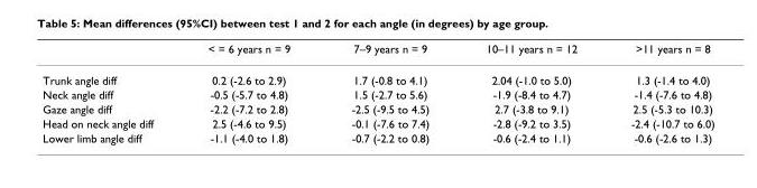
<table><thead><tr><td></td><td>&lt; = 6 years n = 9</td><td>7–9 years n = 9</td><td>10–11 years n = 12</td><td>&gt;11 years n = 8</td></tr></thead><tbody><tr><td>Trunk angle diff</td><td>0.2 (-2.6 to 2.9)</td><td>1.7 (-0.8 to 4.1)</td><td>2.04 (-1.0 to 5.0)</td><td>1.3 (-1.4 to 4.0)</td></tr><tr><td>Neck angle diff</td><td>-0.5 (-5.7 to 4.8)</td><td>1.5 (-2.7 to 5.6)</td><td>-1.9 (-8.4 to 4.7)</td><td>-1.4 (-7.6 to 4.8)</td></tr><tr><td>Gaze angle diff</td><td>-2.2 (-7.2 to 2.8)</td><td>-2.5 (-9.5 to 4.5)</td><td>2.7 (-3.8 to 9.1)</td><td>2.5 (-5.3 to 10.3)</td></tr><tr><td>Head on neck angle diff</td><td>2.5 (-4.6 to 9.5)</td><td>-0.1 (-7.6 to 7.4)</td><td>-2.8 (-9.2 to 3.5)</td><td>-2.4 (-10.7 to 6.0)</td></tr><tr><td>Lower limb angle diff</td><td>-1.1 (-4.0 to 1.8)</td><td>-0.7 (-2.2 to 0.8)</td><td>-0.6 (-2.4 to 1.1)</td><td>-0.6 (-2.6 to 1.3)</td></tr></tbody></table>